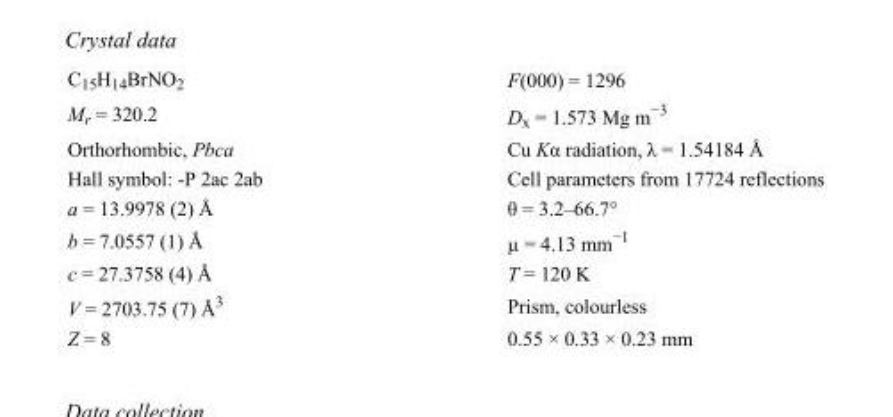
<table><tbody><tr><td>C<sub>15</sub>H<sub>14</sub>BrNO<sub>2</sub></td><td>F(000) = 1296</td></tr><tr><td>M<sub>r</sub> = 320.2</td><td>D<sub>x</sub> = 1.573 Mg m<sup>−3</sup></td></tr><tr><td>Orthorhombic, Pbca</td><td>Cu Kα radiation, λ = 1.54184 Å</td></tr><tr><td>Hall symbol: -P 2ac 2ab</td><td>Cell parameters from 17724 reflections</td></tr><tr><td>a = 13.9978 (2) Å</td><td>θ = 3.2–66.7°</td></tr><tr><td>b = 7.0557 (1) Å</td><td>µ = 4.13 mm<sup>−1</sup></td></tr><tr><td>c = 27.3758 (4) Å</td><td>T = 120 K</td></tr><tr><td>V = 2703.75 (7) Å<sup>3</sup></td><td>Prism, colourless</td></tr><tr><td>Z = 8</td><td>0.55 × 0.33 × 0.23 mm</td></tr></tbody></table>